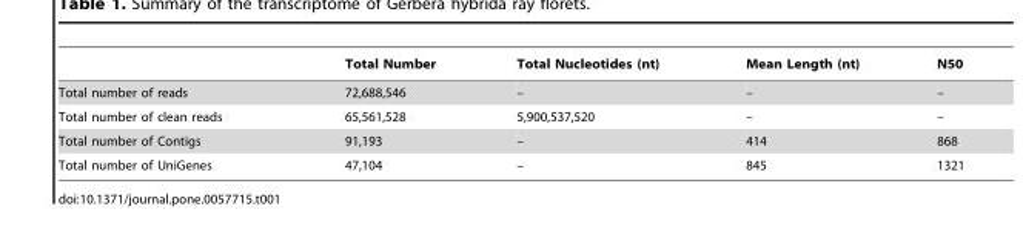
<table><thead><tr><td></td><td>Total Number</td><td>Total Nucleotides (nt)</td><td>Mean Length (nt)</td><td>N50</td></tr></thead><tbody><tr><td>Total number of reads</td><td>72,688,546</td><td>–</td><td>–</td><td>–</td></tr><tr><td>Total number of clean reads</td><td>65,561,528</td><td>5,900,537,520</td><td>–</td><td>–</td></tr><tr><td>Total number of Contigs</td><td>91,193</td><td>–</td><td>414</td><td>868</td></tr><tr><td>Total number of UniGenes</td><td>47,104</td><td>–</td><td>845</td><td>1321</td></tr></tbody></table>